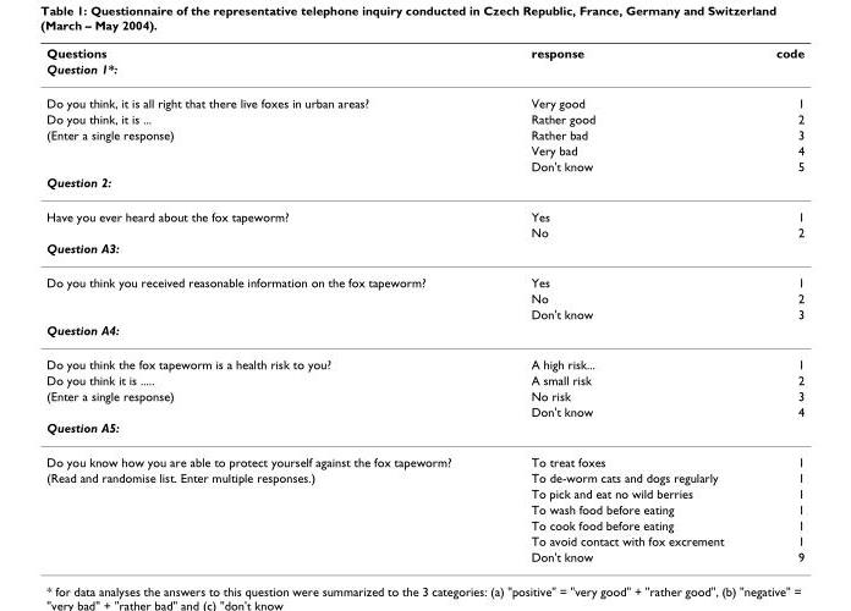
<table><thead><tr><td rowspan="2">Questions Question 1*:</td><td rowspan="2">response</td><td rowspan="2">code</td></tr><tr></tr></thead><tbody><tr><td>Do you think, it is all right that there live foxes in urban areas?</td><td>Very good</td><td>1</td></tr><tr><td>Do you think, it is ...</td><td>Rather good</td><td>2</td></tr><tr><td rowspan="3">(Enter a single response)</td><td>Rather bad</td><td>3</td></tr><tr><td>Very bad</td><td>4</td></tr><tr><td>Don&#x27;t know</td><td>5</td></tr><tr><td colspan="3">Question 2:</td></tr><tr><td rowspan="2">Have you ever heard about the fox tapeworm?</td><td>Yes</td><td>1</td></tr><tr><td>No</td><td>2</td></tr><tr><td colspan="3">Question A3:</td></tr><tr><td rowspan="3">Do you think you received reasonable information on the fox tapeworm?</td><td>Yes</td><td>1</td></tr><tr><td>No</td><td>2</td></tr><tr><td>Don&#x27;t know</td><td>3</td></tr><tr><td colspan="3">Question A4:</td></tr><tr><td>Do you think the fox tapeworm is a health risk to you?</td><td>A high risk...</td><td>1</td></tr><tr><td>Do you think it is .....</td><td>A small risk</td><td>2</td></tr><tr><td rowspan="2">(Enter a single response)</td><td>No risk</td><td>3</td></tr><tr><td>Don&#x27;t know</td><td>4</td></tr><tr><td colspan="3">Question A5:</td></tr><tr><td>Do you know how you are able to protect yourself against the fox tapeworm?</td><td>To treat foxes</td><td>1</td></tr><tr><td rowspan="6">(Read and randomise list. Enter multiple responses.)</td><td>To de-worm cats and dogs regularly</td><td>1</td></tr><tr><td>To pick and eat no wild berries</td><td>1</td></tr><tr><td>To wash food before eating</td><td>1</td></tr><tr><td>To cook food before eating</td><td>1</td></tr><tr><td>To avoid contact with fox excrement</td><td>1</td></tr><tr><td>Don&#x27;t know</td><td>9</td></tr></tbody></table>